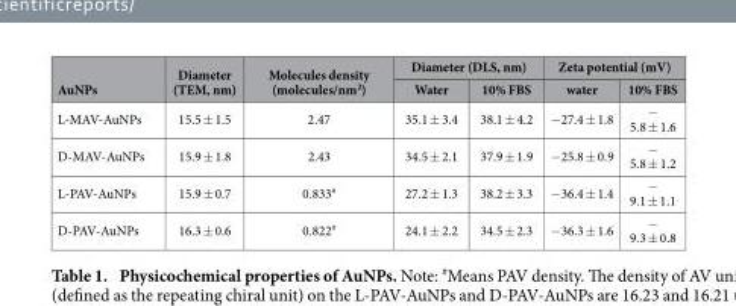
<table><thead><tr><td rowspan="2">AuNPs</td><td rowspan="2">Diameter (TEM, nm)</td><td rowspan="2">Molecules density (molecules/nm<sup>2</sup>)</td><td colspan="2">Diameter (DLS, nm)</td><td colspan="2">Zeta potential (mV)</td></tr><tr><td>Water</td><td>10% FBS</td><td>water</td><td>10% FBS</td></tr></thead><tbody><tr><td>L-MAV-AuNPs</td><td>15.5 ± 1.5</td><td>2.47</td><td>35.1 ± 3.4</td><td>38.1 ± 4.2</td><td>− 27.4 ± 1.8</td><td>− 5.8 ± 1.6</td></tr><tr><td>D-MAV-AuNPs</td><td>15.9 ± 1.8</td><td>2.43</td><td>34.5 ± 2.1</td><td>37.9 ± 1.9</td><td>− 25.8 ± 0.9</td><td>− 5.8 ± 1.2</td></tr><tr><td>L-PAV-AuNPs</td><td>15.9 ± 0.7</td><td>0.833#</td><td>27.2 ± 1.3</td><td>38.2 ± 3.3</td><td>− 36.4 ± 1.4</td><td>− 9.1 ± 1.1</td></tr><tr><td>D-PAV-AuNPs</td><td>16.3 ± 0.6</td><td>0.822#</td><td>24.1 ± 2.2</td><td>34.5 ± 2.3</td><td>− 36.3 ± 1.6</td><td>− 9.3 ± 0.8</td></tr></tbody></table>